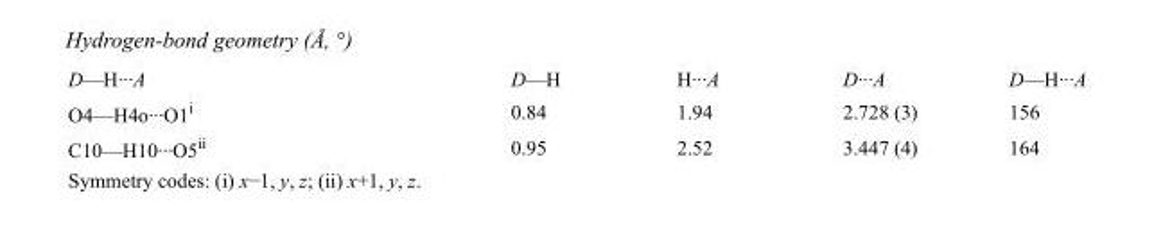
<table><tbody><tr><td>D—H···A</td><td>D—H</td><td>H···A</td><td>D···A</td><td>D—H···A</td></tr><tr><td>O4—H4o···O1<sup>i</sup></td><td>0.84</td><td>1.94</td><td>2.728 (3)</td><td>156</td></tr><tr><td>C10—H10···O5<sup>ii</sup></td><td>0.95</td><td>2.52</td><td>3.447 (4)</td><td>164</td></tr></tbody></table>